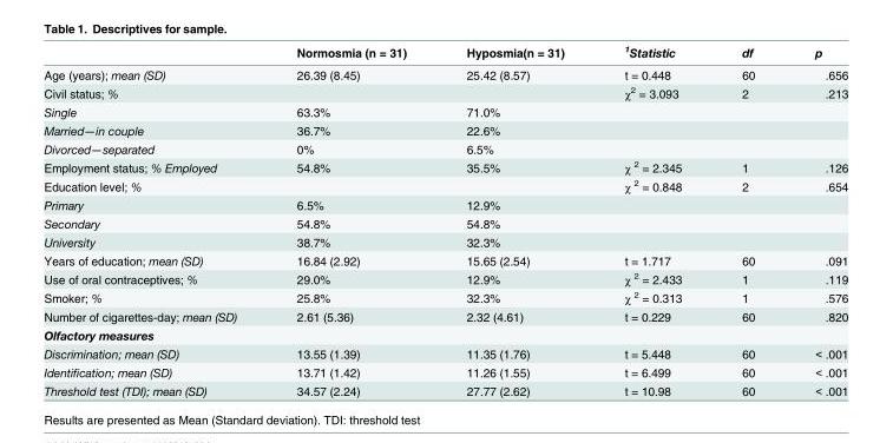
<table><thead><tr><td></td><td>Normosmia (n = 31)</td><td>Hyposmia(n = 31)</td><td><sup>1</sup>Statistic</td><td>df</td><td>p</td></tr></thead><tbody><tr><td>Age (years); mean (SD)</td><td>26.39 (8.45)</td><td>25.42 (8.57)</td><td>t = 0.448</td><td>60</td><td>.656</td></tr><tr><td>Civil status; %</td><td></td><td></td><td>χ<sup>2</sup> = 3.093</td><td>2</td><td>.213</td></tr><tr><td>Single</td><td>63.3%</td><td>71.0%</td><td></td><td></td><td></td></tr><tr><td>Married—in couple</td><td>36.7%</td><td>22.6%</td><td></td><td></td><td></td></tr><tr><td>Divorced—separated</td><td>0%</td><td>6.5%</td><td></td><td></td><td></td></tr><tr><td>Employment status; % Employed</td><td>54.8%</td><td>35.5%</td><td>χ <sup>2</sup> = 2.345</td><td>1</td><td>.126</td></tr><tr><td>Education level; %</td><td></td><td></td><td>χ <sup>2</sup> = 0.848</td><td>2</td><td>.654</td></tr><tr><td>Primary</td><td>6.5%</td><td>12.9%</td><td></td><td></td><td></td></tr><tr><td>Secondary</td><td>54.8%</td><td>54.8%</td><td></td><td></td><td></td></tr><tr><td>University</td><td>38.7%</td><td>32.3%</td><td></td><td></td><td></td></tr><tr><td>Years of education; mean (SD)</td><td>16.84 (2.92)</td><td>15.65 (2.54)</td><td>t = 1.717</td><td>60</td><td>.091</td></tr><tr><td>Use of oral contraceptives; %</td><td>29.0%</td><td>12.9%</td><td>χ <sup>2</sup> = 2.433</td><td>1</td><td>.119</td></tr><tr><td>Smoker; %</td><td>25.8%</td><td>32.3%</td><td>χ <sup>2</sup> = 0.313</td><td>1</td><td>.576</td></tr><tr><td>Number of cigarettes-day; mean (SD)</td><td>2.61 (5.36)</td><td>2.32 (4.61)</td><td>t = 0.229</td><td>60</td><td>.820</td></tr><tr><td colspan="6">Olfactory measures</td></tr><tr><td>Discrimination; mean (SD)</td><td>13.55 (1.39)</td><td>11.35 (1.76)</td><td>t = 5.448</td><td>60</td><td>&lt; .001</td></tr><tr><td>Identification; mean (SD)</td><td>13.71 (1.42)</td><td>11.26 (1.55)</td><td>t = 6.499</td><td>60</td><td>&lt; .001</td></tr><tr><td>Threshold test (TDI); mean (SD)</td><td>34.57 (2.24)</td><td>27.77 (2.62)</td><td>t = 10.98</td><td>60</td><td>&lt; .001</td></tr></tbody></table>